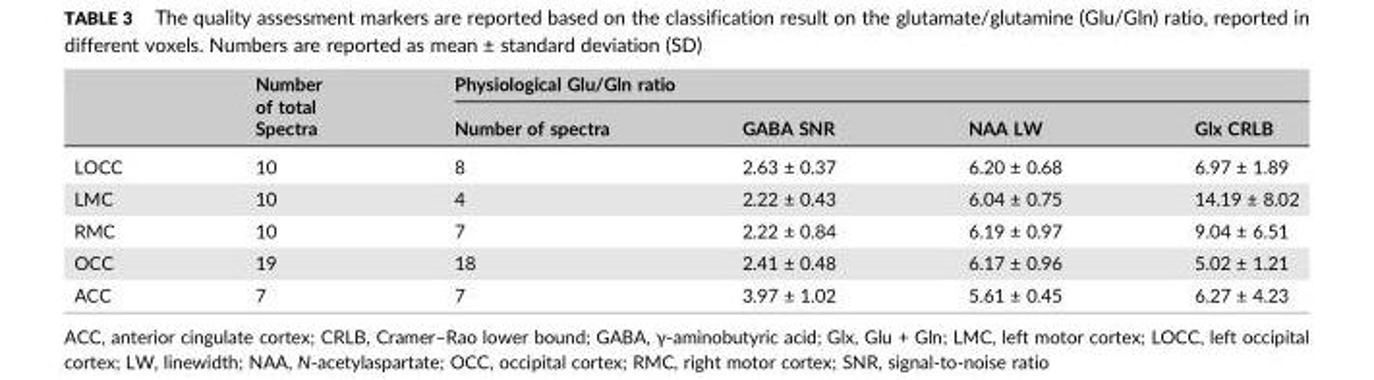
<table><thead><tr><td rowspan="2"></td><td rowspan="2">Number of total Spectra</td><td colspan="4">Physiological Glu/Gln ratio</td></tr><tr><td>Number of spectra</td><td>GABA SNR</td><td>NAA LW</td><td>Glx CRLB</td></tr></thead><tbody><tr><td>LOCC</td><td>10</td><td>8</td><td>2.63 ± 0.37</td><td>6.20 ± 0.68</td><td>6.97 ± 1.89</td></tr><tr><td>LMC</td><td>10</td><td>4</td><td>2.22 ± 0.43</td><td>6.04 ± 0.75</td><td>14.19 ± 8.02</td></tr><tr><td>RMC</td><td>10</td><td>7</td><td>2.22 ± 0.84</td><td>6.19 ± 0.97</td><td>9.04 ± 6.51</td></tr><tr><td>OCC</td><td>19</td><td>18</td><td>2.41 ± 0.48</td><td>6.17 ± 0.96</td><td>5.02 ± 1.21</td></tr><tr><td>ACC</td><td>7</td><td>7</td><td>3.97 ± 1.02</td><td>5.61 ± 0.45</td><td>6.27 ± 4.23</td></tr></tbody></table>